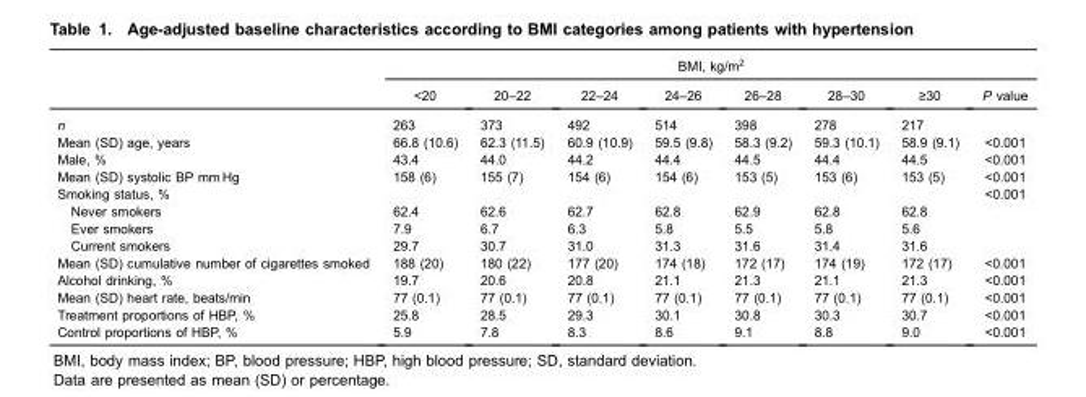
<table><thead><tr><td rowspan="2"></td><td colspan="8">BMI, kg/m<sup>2</sup></td></tr><tr><td>&lt;20</td><td>20–22</td><td>22–24</td><td>24–26</td><td>26–28</td><td>28–30</td><td>≥30</td><td>P value</td></tr></thead><tbody><tr><td>n</td><td>263</td><td>373</td><td>492</td><td>514</td><td>398</td><td>278</td><td>217</td><td></td></tr><tr><td>Mean (SD) age, years</td><td>66.8 (10.6)</td><td>62.3 (11.5)</td><td>60.9 (10.9)</td><td>59.5 (9.8)</td><td>58.3 (9.2)</td><td>59.3 (10.1)</td><td>58.9 (9.1)</td><td>&lt;0.001</td></tr><tr><td>Male, %</td><td>43.4</td><td>44.0</td><td>44.2</td><td>44.4</td><td>44.5</td><td>44.4</td><td>44.5</td><td>&lt;0.001</td></tr><tr><td>Mean (SD) systolic BP mm Hg</td><td>158 (6)</td><td>155 (7)</td><td>154 (6)</td><td>154 (6)</td><td>153 (5)</td><td>153 (6)</td><td>153 (5)</td><td>&lt;0.001</td></tr><tr><td>Smoking status, %</td><td></td><td></td><td></td><td></td><td></td><td></td><td></td><td>&lt;0.001</td></tr><tr><td>Never smokers</td><td>62.4</td><td>62.6</td><td>62.7</td><td>62.8</td><td>62.9</td><td>62.8</td><td>62.8</td><td></td></tr><tr><td>Ever smokers</td><td>7.9</td><td>6.7</td><td>6.3</td><td>5.8</td><td>5.5</td><td>5.8</td><td>5.6</td><td></td></tr><tr><td>Current smokers</td><td>29.7</td><td>30.7</td><td>31.0</td><td>31.3</td><td>31.6</td><td>31.4</td><td>31.6</td><td></td></tr><tr><td>Mean (SD) cumulative number of cigarettes smoked</td><td>188 (20)</td><td>180 (22)</td><td>177 (20)</td><td>174 (18)</td><td>172 (17)</td><td>174 (19)</td><td>172 (17)</td><td>&lt;0.001</td></tr><tr><td>Alcohol drinking, %</td><td>19.7</td><td>20.6</td><td>20.8</td><td>21.1</td><td>21.3</td><td>21.1</td><td>21.3</td><td>&lt;0.001</td></tr><tr><td>Mean (SD) heart rate, beats/min</td><td>77 (0.1)</td><td>77 (0.1)</td><td>77 (0.1)</td><td>77 (0.1)</td><td>77 (0.1)</td><td>77 (0.1)</td><td>77 (0.1)</td><td>&lt;0.001</td></tr><tr><td>Treatment proportions of HBP, %</td><td>25.8</td><td>28.5</td><td>29.3</td><td>30.1</td><td>30.8</td><td>30.3</td><td>30.7</td><td>&lt;0.001</td></tr><tr><td>Control proportions of HBP, %</td><td>5.9</td><td>7.8</td><td>8.3</td><td>8.6</td><td>9.1</td><td>8.8</td><td>9.0</td><td>&lt;0.001</td></tr></tbody></table>